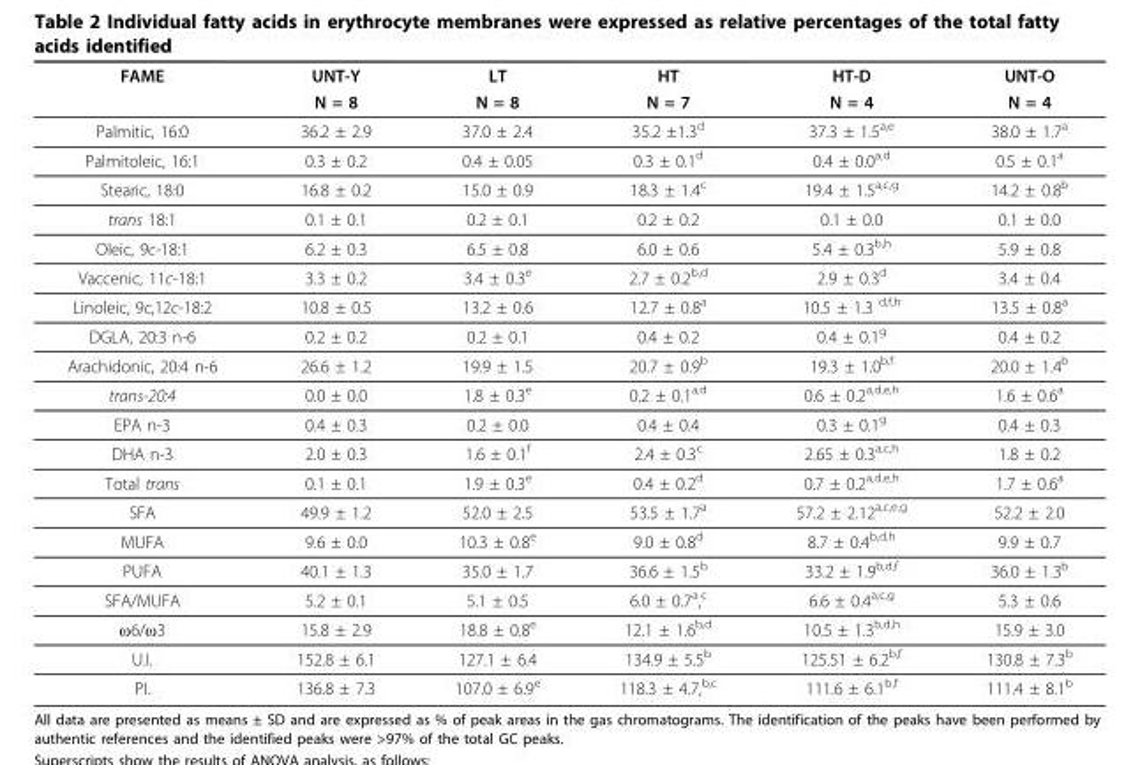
<table><thead><tr><td rowspan="2">FAME</td><td rowspan="2">UNT-Y N = 8</td><td rowspan="2">LT N = 8</td><td rowspan="2">HT N = 7</td><td rowspan="2">HT-D N = 4</td><td rowspan="2">UNT-O N = 4</td></tr><tr></tr></thead><tbody><tr><td>Palmitic, 16:0</td><td>36.2 ± 2.9</td><td>37.0 ± 2.4</td><td>35.2 ±1.3<sup>d</sup></td><td>37.3 ± 1.5<sup>a,e</sup></td><td>38.0 ± 1.7<sup>a</sup></td></tr><tr><td>Palmitoleic, 16:1</td><td>0.3 ± 0.2</td><td>0.4 ± 0.05</td><td>0.3 ± 0.1<sup>d</sup></td><td>0.4 ± 0.0<sup>a,d</sup></td><td>0.5 ± 0.1<sup>a</sup></td></tr><tr><td>Stearic, 18:0</td><td>16.8 ± 0.2</td><td>15.0 ± 0.9</td><td>18.3 ± 1.4<sup>c</sup></td><td>19.4 ± 1.5<sup>a,c,g</sup></td><td>14.2 ± 0.8<sup>b</sup></td></tr><tr><td>trans 18:1</td><td>0.1 ± 0.1</td><td>0.2 ± 0.1</td><td>0.2 ± 0.2</td><td>0.1 ± 0.0</td><td>0.1 ± 0.0</td></tr><tr><td>Oleic, 9c-18:1</td><td>6.2 ± 0.3</td><td>6.5 ± 0.8</td><td>6.0 ± 0.6</td><td>5.4 ± 0.3<sup>b,h</sup></td><td>5.9 ± 0.8</td></tr><tr><td>Vaccenic, 11c-18:1</td><td>3.3 ± 0.2</td><td>3.4 ± 0.3<sup>e</sup></td><td>2.7 ± 0.2<sup>b,d</sup></td><td>2.9 ± 0.3<sup>d</sup></td><td>3.4 ± 0.4</td></tr><tr><td>Linoleic, 9c,12c-18:2</td><td>10.8 ± 0.5</td><td>13.2 ± 0.6</td><td>12.7 ± 0.8<sup>a</sup></td><td>10.5 ± 1.3 <sup>d,f,h</sup></td><td>13.5 ± 0.8<sup>a</sup></td></tr><tr><td>DGLA, 20:3 n-6</td><td>0.2 ± 0.2</td><td>0.2 ± 0.1</td><td>0.4 ± 0.2</td><td>0.4 ± 0.1<sup>g</sup></td><td>0.4 ± 0.2</td></tr><tr><td>Arachidonic, 20:4 n-6</td><td>26.6 ± 1.2</td><td>19.9 ± 1.5</td><td>20.7 ± 0.9<sup>b</sup></td><td>19.3 ± 1.0<sup>b,f</sup></td><td>20.0 ± 1.4<sup>b</sup></td></tr><tr><td>trans-20:4</td><td>0.0 ± 0.0</td><td>1.8 ± 0.3<sup>e</sup></td><td>0.2 ± 0.1<sup>a,d</sup></td><td>0.6 ± 0.2<sup>a,d,e,h</sup></td><td>1.6 ± 0.6<sup>a</sup></td></tr><tr><td>EPA n-3</td><td>0.4 ± 0.3</td><td>0.2 ± 0.0</td><td>0.4 ± 0.4</td><td>0.3 ± 0.1<sup>g</sup></td><td>0.4 ± 0.3</td></tr><tr><td>DHA n-3</td><td>2.0 ± 0.3</td><td>1.6 ± 0.1<sup>f</sup></td><td>2.4 ± 0.3<sup>c</sup></td><td>2.65 ± 0.3<sup>a,c,h</sup></td><td>1.8 ± 0.2</td></tr><tr><td>Total trans</td><td>0.1 ± 0.1</td><td>1.9 ± 0.3<sup>e</sup></td><td>0.4 ± 0.2<sup>d</sup></td><td>0.7 ± 0.2<sup>a,d,e,h</sup></td><td>1.7 ± 0.6<sup>a</sup></td></tr><tr><td>SFA</td><td>49.9 ± 1.2</td><td>52.0 ± 2.5</td><td>53.5 ± 1.7<sup>a</sup></td><td>57.2 ± 2.12<sup>a,c,e,g</sup></td><td>52.2 ± 2.0</td></tr><tr><td>MUFA</td><td>9.6 ± 0.0</td><td>10.3 ± 0.8<sup>e</sup></td><td>9.0 ± 0.8<sup>d</sup></td><td>8.7 ± 0.4<sup>b,d,h</sup></td><td>9.9 ± 0.7</td></tr><tr><td>PUFA</td><td>40.1 ± 1.3</td><td>35.0 ± 1.7</td><td>36.6 ± 1.5<sup>b</sup></td><td>33.2 ± 1.9<sup>b,d,f</sup></td><td>36.0 ± 1.3<sup>b</sup></td></tr><tr><td>SFA/MUFA</td><td>5.2 ± 0.1</td><td>5.1 ± 0.5</td><td>6.0 ± 0.7<sup>a</sup>,<sup>c</sup></td><td>6.6 ± 0.4<sup>a,c,g</sup></td><td>5.3 ± 0.6</td></tr><tr><td>ω6/ω3</td><td>15.8 ± 2.9</td><td>18.8 ± 0.8<sup>e</sup></td><td>12.1 ± 1.6<sup>b,d</sup></td><td>10.5 ± 1.3<sup>b,d,h</sup></td><td>15.9 ± 3.0</td></tr><tr><td>U.I.</td><td>152.8 ± 6.1</td><td>127.1 ± 6.4</td><td>134.9 ± 5.5<sup>b</sup></td><td>125.51 ± 6.2<sup>b,f</sup></td><td>130.8 ± 7.3<sup>b</sup></td></tr><tr><td>PI.</td><td>136.8 ± 7.3</td><td>107.0 ± 6.9<sup>e</sup></td><td>118.3 ± 4.7,<sup>b,c</sup></td><td>111.6 ± 6.1<sup>b,f</sup></td><td>111.4 ± 8.1<sup>b</sup></td></tr></tbody></table>